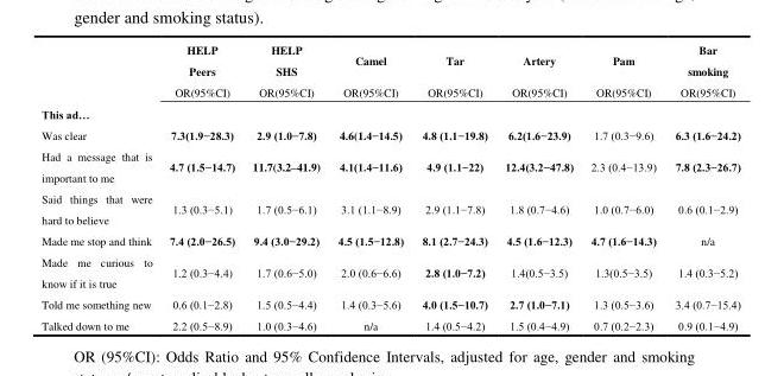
<table><thead><tr><td rowspan="2"></td><td rowspan="2">HELP Peers OR(95%CI)</td><td rowspan="2">HELP SHS OR(95%CI)</td><td rowspan="2">Camel OR(95%CI)</td><td rowspan="2">Tar OR(95%CI)</td><td rowspan="2">Artery OR(95%CI)</td><td rowspan="2">Pam OR(95%CI)</td><td rowspan="2">Bar smoking OR(95%CI)</td></tr><tr></tr></thead><tbody><tr><td colspan="8">This ad…</td></tr><tr><td>Was clear</td><td>7.3(1.9−28.3)</td><td>2.9 (1.0−7.8)</td><td>4.6(1.4−14.5)</td><td>4.8 (1.1−19.8)</td><td>6.2(1.6−23.9)</td><td>1.7 (0.3−9.6)</td><td>6.3 (1.6−24.2)</td></tr><tr><td>Had a message that is important to me</td><td>4.7 (1.5−14.7)</td><td>11.7(3.2–41.9)</td><td>4.1(1.4−11.6)</td><td>4.9 (1.1−22)</td><td>12.4(3.2−47.8)</td><td>2.3 (0.4−13.9)</td><td>7.8 (2.3−26.7)</td></tr><tr><td>Said things that were hard to believe</td><td>1.3 (0.3−5.1)</td><td>1.7 (0.5−6.1)</td><td>3.1 (1.1−8.9)</td><td>2.9 (1.1−7.8)</td><td>1.8 (0.7−4.6)</td><td>1.0 (0.7−6.0)</td><td>0.6 (0.1−2.9)</td></tr><tr><td>Made me stop and think</td><td>7.4 (2.0−26.5)</td><td>9.4 (3.0−29.2)</td><td>4.5 (1.5−12.8)</td><td>8.1 (2.7−24.3)</td><td>4.5 (1.6−12.3)</td><td>4.7 (1.6−14.3)</td><td>n/a</td></tr><tr><td>Made me curious to know if it is true</td><td>1.2 (0.3−4.4)</td><td>1.7 (0.6−5.0)</td><td>2.0 (0.6−6.6)</td><td>2.8 (1.0−7.2)</td><td>1.4(0.5−3.5)</td><td>1.3(0.5−3.5)</td><td>1.4 (0.3−5.2)</td></tr><tr><td>Told me something new</td><td>0.6 (0.1−2.8)</td><td>1.5 (0.5−4.4)</td><td>1.4 (0.3−5.6)</td><td>4.0 (1.5−10.7)</td><td>2.7 (1.0−7.1)</td><td>1.3 (0.5−3.6)</td><td>3.4 (0.7−15.4)</td></tr><tr><td>Talked down to me</td><td>2.2 (0.5−8.9)</td><td>1.0 (0.3−4.6)</td><td>n/a</td><td>1.4 (0.5−4.2)</td><td>1.5 (0.4−4.9)</td><td>0.7 (0.2−2.3)</td><td>0.9 (0.1−4.9)</td></tr></tbody></table>